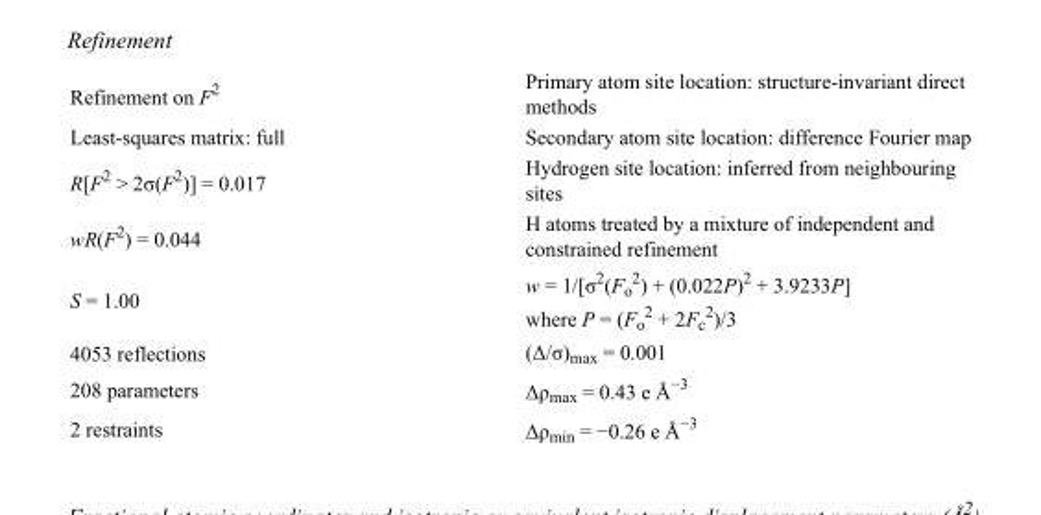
<table><tbody><tr><td>Refinement on F<sup>2</sup></td><td>Primary atom site location: structure-invariant direct methods</td></tr><tr><td>Least-squares matrix: full</td><td>Secondary atom site location: difference Fourier map</td></tr><tr><td>R[F<sup>2</sup> &gt; 2σ(F<sup>2</sup>)] = 0.017</td><td>Hydrogen site location: inferred from neighbouring sites</td></tr><tr><td>wR(F<sup>2</sup>) = 0.044</td><td>H atoms treated by a mixture of independent and constrained refinement</td></tr><tr><td>S = 1.00</td><td>w = 1/[σ<sup>2</sup>(F<sub>o</sub> <sup>2</sup>) + (0.022P)<sup>2</sup> + 3.9233P] where P = (F<sub>o</sub> <sup>2</sup> + 2F<sub>c</sub> <sup>2</sup>)/3</td></tr><tr><td>4053 reflections</td><td>(Δ/σ)<sub>max</sub> = 0.001</td></tr><tr><td>208 parameters</td><td>Δρ<sub>max</sub> = 0.43 e Å<sup>−3</sup></td></tr><tr><td>2 restraints</td><td>Δρ<sub>min</sub> = −0.26 e Å<sup>−3</sup></td></tr></tbody></table>